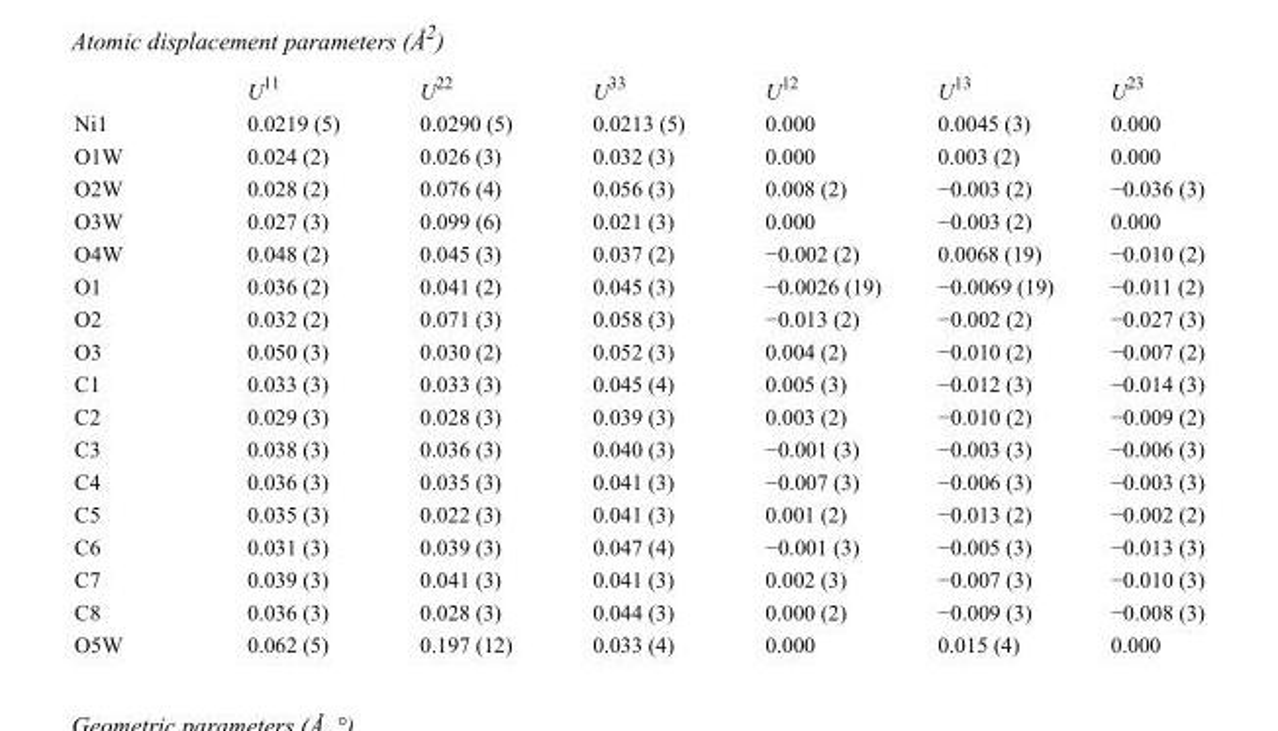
<table><thead><tr><td></td><td>U<sup>11</sup></td><td>U<sup>22</sup></td><td>U<sup>33</sup></td><td>U<sup>12</sup></td><td>U<sup>13</sup></td><td>U<sup>23</sup></td></tr></thead><tbody><tr><td>Ni1</td><td>0.0219 (5)</td><td>0.0290 (5)</td><td>0.0213 (5)</td><td>0.000</td><td>0.0045 (3)</td><td>0.000</td></tr><tr><td>O1W</td><td>0.024 (2)</td><td>0.026 (3)</td><td>0.032 (3)</td><td>0.000</td><td>0.003 (2)</td><td>0.000</td></tr><tr><td>O2W</td><td>0.028 (2)</td><td>0.076 (4)</td><td>0.056 (3)</td><td>0.008 (2)</td><td>−0.003 (2)</td><td>−0.036 (3)</td></tr><tr><td>O3W</td><td>0.027 (3)</td><td>0.099 (6)</td><td>0.021 (3)</td><td>0.000</td><td>−0.003 (2)</td><td>0.000</td></tr><tr><td>O4W</td><td>0.048 (2)</td><td>0.045 (3)</td><td>0.037 (2)</td><td>−0.002 (2)</td><td>0.0068 (19)</td><td>−0.010 (2)</td></tr><tr><td>O1</td><td>0.036 (2)</td><td>0.041 (2)</td><td>0.045 (3)</td><td>−0.0026 (19)</td><td>−0.0069 (19)</td><td>−0.011 (2)</td></tr><tr><td>O2</td><td>0.032 (2)</td><td>0.071 (3)</td><td>0.058 (3)</td><td>−0.013 (2)</td><td>−0.002 (2)</td><td>−0.027 (3)</td></tr><tr><td>O3</td><td>0.050 (3)</td><td>0.030 (2)</td><td>0.052 (3)</td><td>0.004 (2)</td><td>−0.010 (2)</td><td>−0.007 (2)</td></tr><tr><td>C1</td><td>0.033 (3)</td><td>0.033 (3)</td><td>0.045 (4)</td><td>0.005 (3)</td><td>−0.012 (3)</td><td>−0.014 (3)</td></tr><tr><td>C2</td><td>0.029 (3)</td><td>0.028 (3)</td><td>0.039 (3)</td><td>0.003 (2)</td><td>−0.010 (2)</td><td>−0.009 (2)</td></tr><tr><td>C3</td><td>0.038 (3)</td><td>0.036 (3)</td><td>0.040 (3)</td><td>−0.001 (3)</td><td>−0.003 (3)</td><td>−0.006 (3)</td></tr><tr><td>C4</td><td>0.036 (3)</td><td>0.035 (3)</td><td>0.041 (3)</td><td>−0.007 (3)</td><td>−0.006 (3)</td><td>−0.003 (3)</td></tr><tr><td>C5</td><td>0.035 (3)</td><td>0.022 (3)</td><td>0.041 (3)</td><td>0.001 (2)</td><td>−0.013 (2)</td><td>−0.002 (2)</td></tr><tr><td>C6</td><td>0.031 (3)</td><td>0.039 (3)</td><td>0.047 (4)</td><td>−0.001 (3)</td><td>−0.005 (3)</td><td>−0.013 (3)</td></tr><tr><td>C7</td><td>0.039 (3)</td><td>0.041 (3)</td><td>0.041 (3)</td><td>0.002 (3)</td><td>−0.007 (3)</td><td>−0.010 (3)</td></tr><tr><td>C8</td><td>0.036 (3)</td><td>0.028 (3)</td><td>0.044 (3)</td><td>0.000 (2)</td><td>−0.009 (3)</td><td>−0.008 (3)</td></tr><tr><td>O5W</td><td>0.062 (5)</td><td>0.197 (12)</td><td>0.033 (4)</td><td>0.000</td><td>0.015 (4)</td><td>0.000</td></tr></tbody></table>